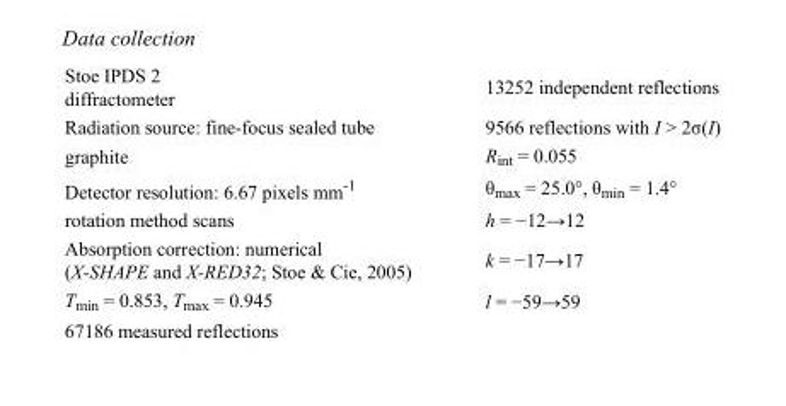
<table><tbody><tr><td>Stoe IPDS 2 diffractometer</td><td>13252 independent reflections</td></tr><tr><td>Radiation source: fine-focus sealed tube</td><td>9566 reflections with I &gt; 2σ(I)</td></tr><tr><td>graphite</td><td>R<sub>int</sub> = 0.055</td></tr><tr><td>Detector resolution: 6.67 pixels mm<sup>-1</sup></td><td>θ<sub>max</sub> = 25.0°, θ<sub>min</sub> = 1.4°</td></tr><tr><td>rotation method scans</td><td>h = −12→12</td></tr><tr><td>Absorption correction: numerical (X-SHAPE and X-RED32; Stoe &amp; Cie, 2005)</td><td>k = −17→17</td></tr><tr><td>T<sub>min</sub> = 0.853, T<sub>max</sub> = 0.945</td><td>l = −59→59</td></tr><tr><td>67186 measured reflections</td><td></td></tr></tbody></table>